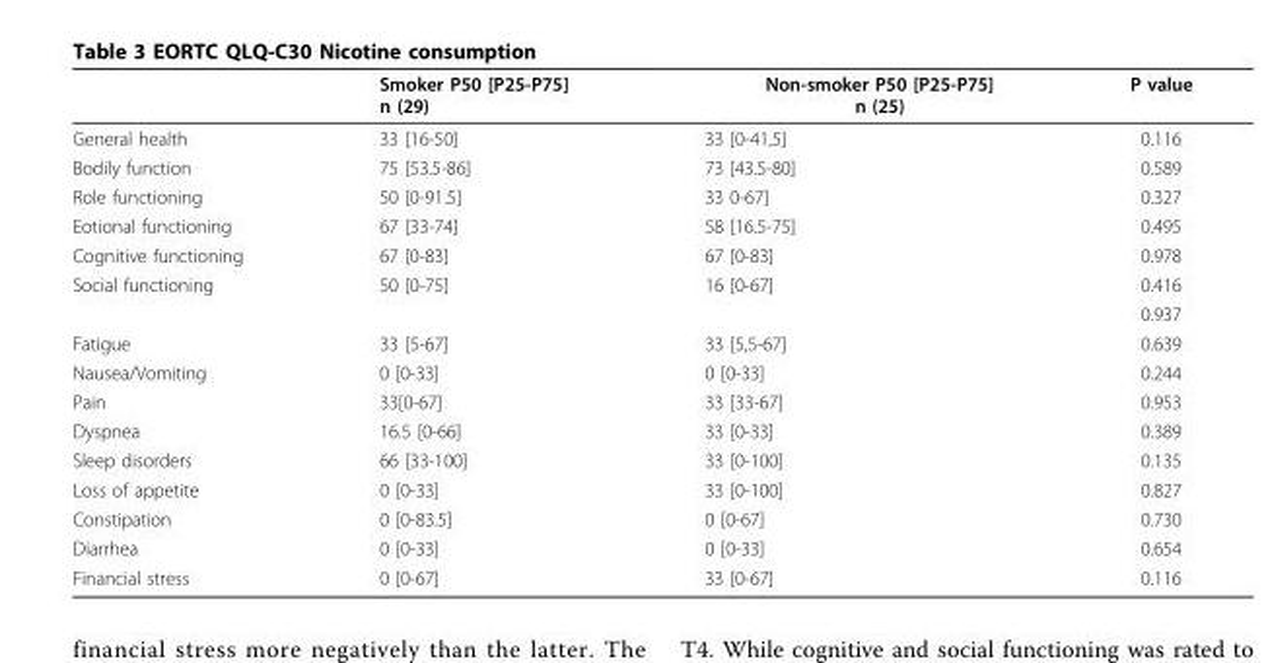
<table><thead><tr><td></td><td>Smoker P50 [P25-P75] n (29)</td><td>Non-smoker P50 [P25-P75] n (25)</td><td>P value</td></tr></thead><tbody><tr><td>General health</td><td>33 [16-50]</td><td>33 [0-41,5]</td><td>0.116</td></tr><tr><td>Bodily function</td><td>75 [53.5-86]</td><td>73 [43.5-80]</td><td>0.589</td></tr><tr><td>Role functioning</td><td>50 [0-91.5]</td><td>33 0-67]</td><td>0.327</td></tr><tr><td>Eotional functioning</td><td>67 [33-74]</td><td>58 [16.5-75]</td><td>0.495</td></tr><tr><td>Cognitive functioning</td><td>67 [0-83]</td><td>67 [0-83]</td><td>0.978</td></tr><tr><td rowspan="2">Social functioning</td><td>50 [0-75]</td><td>16 [0-67]</td><td>0.416</td></tr><tr><td></td><td></td><td>0.937</td></tr><tr><td>Fatigue</td><td>33 [5-67]</td><td>33 [5,5-67]</td><td>0.639</td></tr><tr><td>Nausea/Vomiting</td><td>0 [0-33]</td><td>0 [0-33]</td><td>0.244</td></tr><tr><td>Pain</td><td>33[0-67]</td><td>33 [33-67]</td><td>0.953</td></tr><tr><td>Dyspnea</td><td>16.5 [0-66]</td><td>33 [0-33]</td><td>0.389</td></tr><tr><td>Sleep disorders</td><td>66 [33-100]</td><td>33 [0-100]</td><td>0.135</td></tr><tr><td>Loss of appetite</td><td>0 [0-33]</td><td>33 [0-100]</td><td>0.827</td></tr><tr><td>Constipation</td><td>0 [0-83.5]</td><td>0 [0-67]</td><td>0.730</td></tr><tr><td>Diarrhea</td><td>0 [0-33]</td><td>0 [0-33]</td><td>0.654</td></tr><tr><td>Financial stress</td><td>0 [0-67]</td><td>33 [0-67]</td><td>0.116</td></tr></tbody></table>